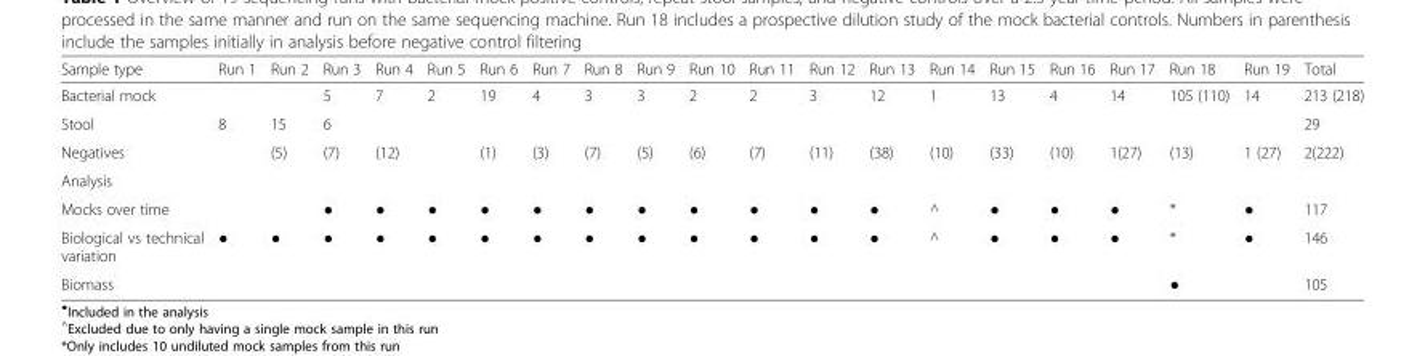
<table><thead><tr><td>Sample type</td><td>Run 1</td><td>Run 2</td><td>Run 3</td><td>Run 4</td><td>Run 5</td><td>Run 6</td><td>Run 7</td><td>Run 8</td><td>Run 9</td><td>Run 10</td><td>Run 11</td><td>Run 12</td><td>Run 13</td><td>Run 14</td><td>Run 15</td><td>Run 16</td><td>Run 17</td><td>Run 18</td><td>Run 19</td><td>Total</td></tr></thead><tbody><tr><td>Bacterial mock</td><td></td><td></td><td>5</td><td>7</td><td>2</td><td>19</td><td>4</td><td>3</td><td>3</td><td>2</td><td>2</td><td>3</td><td>12</td><td>1</td><td>13</td><td>4</td><td>14</td><td>105 (110)</td><td>14</td><td>213 (218)</td></tr><tr><td>Stool</td><td>8</td><td>15</td><td>6</td><td></td><td></td><td></td><td></td><td></td><td></td><td></td><td></td><td></td><td></td><td></td><td></td><td></td><td></td><td></td><td></td><td>29</td></tr><tr><td>Negatives</td><td></td><td>(5)</td><td>(7)</td><td>(12)</td><td></td><td>(1)</td><td>(3)</td><td>(7)</td><td>(5)</td><td>(6)</td><td>(7)</td><td>(11)</td><td>(38)</td><td>(10)</td><td>(33)</td><td>(10)</td><td>1(27)</td><td>(13)</td><td>1 (27)</td><td>2(222)</td></tr><tr><td colspan="21">Analysis</td></tr><tr><td>Mocks over time</td><td></td><td></td><td>●</td><td>●</td><td>●</td><td>●</td><td>●</td><td>●</td><td>●</td><td>●</td><td>●</td><td>●</td><td>●</td><td>^</td><td>●</td><td>●</td><td>●</td><td>*</td><td>●</td><td>117</td></tr><tr><td>Biological vs technical variation</td><td>●</td><td>●</td><td>●</td><td>●</td><td>●</td><td>●</td><td>●</td><td>●</td><td>●</td><td>●</td><td>●</td><td>●</td><td>●</td><td>^</td><td>●</td><td>●</td><td>●</td><td>*</td><td>●</td><td>146</td></tr><tr><td>Biomass</td><td></td><td></td><td></td><td></td><td></td><td></td><td></td><td></td><td></td><td></td><td></td><td></td><td></td><td></td><td></td><td></td><td></td><td>●</td><td></td><td>105</td></tr></tbody></table>